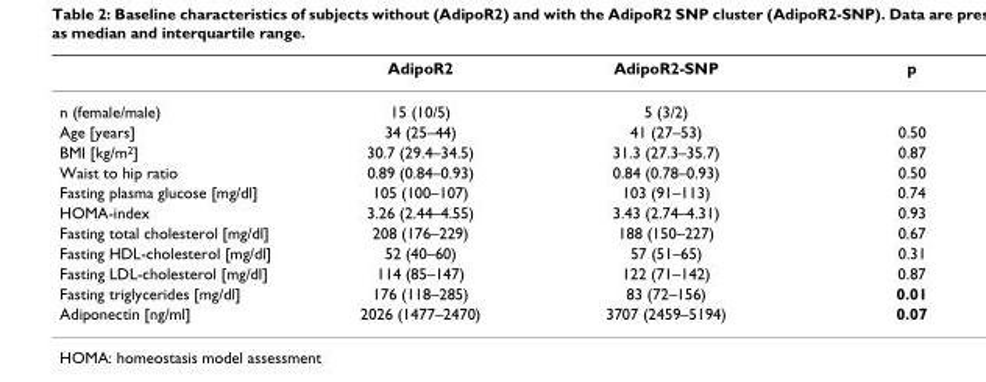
<table><thead><tr><td></td><td>AdipoR2</td><td>AdipoR2-SNP</td><td>p</td></tr></thead><tbody><tr><td>n (female/male)</td><td>15 (10/5)</td><td>5 (3/2)</td><td></td></tr><tr><td>Age [years]</td><td>34 (25–44)</td><td>41 (27–53)</td><td>0.50</td></tr><tr><td>BMI [kg/m<sup>2</sup>]</td><td>30.7 (29.4–34.5)</td><td>31.3 (27.3–35.7)</td><td>0.87</td></tr><tr><td>Waist to hip ratio</td><td>0.89 (0.84–0.93)</td><td>0.84 (0.78–0.93)</td><td>0.50</td></tr><tr><td>Fasting plasma glucose [mg/dl]</td><td>105 (100–107)</td><td>103 (91–113)</td><td>0.74</td></tr><tr><td>HOMA-index</td><td>3.26 (2.44–4.55)</td><td>3.43 (2.74–4.31)</td><td>0.93</td></tr><tr><td>Fasting total cholesterol [mg/dl]</td><td>208 (176–229)</td><td>188 (150–227)</td><td>0.67</td></tr><tr><td>Fasting HDL-cholesterol [mg/dl]</td><td>52 (40–60)</td><td>57 (51–65)</td><td>0.31</td></tr><tr><td>Fasting LDL-cholesterol [mg/dl]</td><td>114 (85–147)</td><td>122 (71–142)</td><td>0.87</td></tr><tr><td>Fasting triglycerides [mg/dl]</td><td>176 (118–285)</td><td>83 (72–156)</td><td>0.01</td></tr><tr><td>Adiponectin [ng/ml]</td><td>2026 (1477–2470)</td><td>3707 (2459–5194)</td><td>0.07</td></tr></tbody></table>